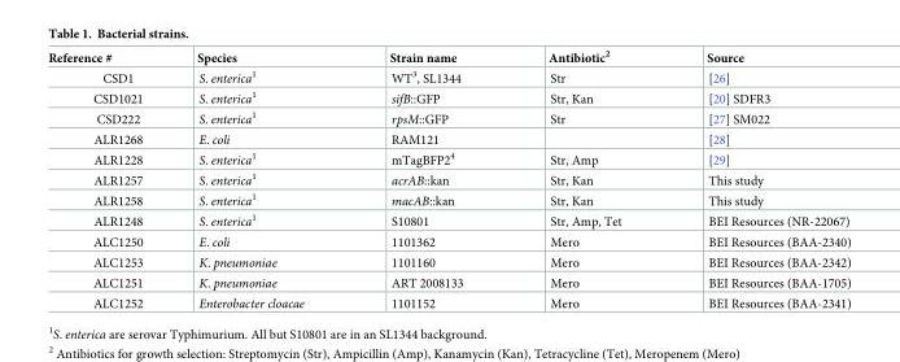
<table><thead><tr><td>Reference #</td><td>Species</td><td>Strain name</td><td>Antibiotic<sup>2</sup></td><td>Source</td></tr></thead><tbody><tr><td>CSD1</td><td>S. enterica<sup>1</sup></td><td>WT<sup>3</sup>, SL1344</td><td>Str</td><td>[26]</td></tr><tr><td>CSD1021</td><td>S. enterica<sup>1</sup></td><td>sifB::GFP</td><td>Str, Kan</td><td>[20] SDFR3</td></tr><tr><td>CSD222</td><td>S. enterica<sup>1</sup></td><td>rpsM::GFP</td><td>Str</td><td>[27] SM022</td></tr><tr><td>ALR1268</td><td>E. coli</td><td>RAM121</td><td></td><td>[28]</td></tr><tr><td>ALR1228</td><td>S. enterica<sup>1</sup></td><td>mTagBFP2<sup>4</sup></td><td>Str, Amp</td><td>[29]</td></tr><tr><td>ALR1257</td><td>S. enterica<sup>1</sup></td><td>acrAB::kan</td><td>Str, Kan</td><td>This study</td></tr><tr><td>ALR1258</td><td>S. enterica<sup>1</sup></td><td>macAB::kan</td><td>Str, Kan</td><td>This study</td></tr><tr><td>ALR1248</td><td>S. enterica<sup>1</sup></td><td>S10801</td><td>Str, Amp, Tet</td><td>BEI Resources (NR-22067)</td></tr><tr><td>ALC1250</td><td>E. coli</td><td>1101362</td><td>Mero</td><td>BEI Resources (BAA-2340)</td></tr><tr><td>ALC1253</td><td>K. pneumoniae</td><td>1101160</td><td>Mero</td><td>BEI Resources (BAA-2342)</td></tr><tr><td>ALC1251</td><td>K. pneumoniae</td><td>ART 2008133</td><td>Mero</td><td>BEI Resources (BAA-1705)</td></tr><tr><td>ALC1252</td><td>Enterobacter cloacae</td><td>1101152</td><td>Mero</td><td>BEI Resources (BAA-2341)</td></tr></tbody></table>